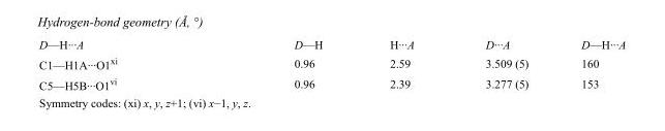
<table><tbody><tr><td>D—H···A</td><td>D—H</td><td>H···A</td><td>D···A</td><td>D—H···A</td></tr><tr><td>C1—H1A···O1<sup>xi</sup></td><td>0.96</td><td>2.59</td><td>3.509 (5)</td><td>160</td></tr><tr><td>C5—H5B···O1<sup>vi</sup></td><td>0.96</td><td>2.39</td><td>3.277 (5)</td><td>153</td></tr></tbody></table>